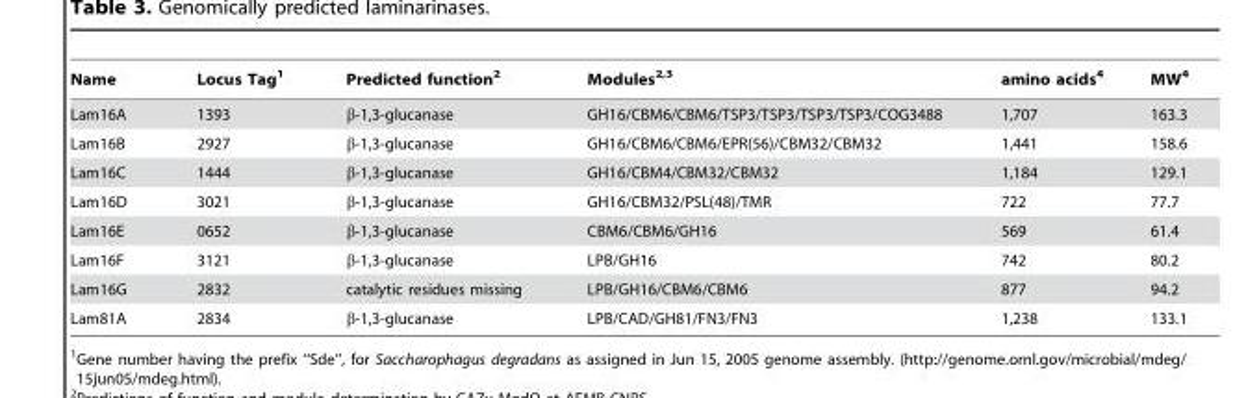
<table><thead><tr><td>Name</td><td>Locus Tag<sup>1</sup></td><td>Predicted function<sup>2</sup></td><td>Modules<sup>2</sup>,<sup>3</sup></td><td>amino acids<sup>4</sup></td><td>MW<sup>4</sup></td></tr></thead><tbody><tr><td>Lam16A</td><td>1393</td><td>β-1,3-glucanase</td><td>GH16/CBM6/CBM6/TSP3/TSP3/TSP3/TSP3/COG3488</td><td>1,707</td><td>163.3</td></tr><tr><td>Lam16B</td><td>2927</td><td>β-1,3-glucanase</td><td>GH16/CBM6/CBM6/EPR(56)/CBM32/CBM32</td><td>1,441</td><td>158.6</td></tr><tr><td>Lam16C</td><td>1444</td><td>β-1,3-glucanase</td><td>GH16/CBM4/CBM32/CBM32</td><td>1,184</td><td>129.1</td></tr><tr><td>Lam16D</td><td>3021</td><td>β-1,3-glucanase</td><td>GH16/CBM32/PSL(48)/TMR</td><td>722</td><td>77.7</td></tr><tr><td>Lam16E</td><td>0652</td><td>β-1,3-glucanase</td><td>CBM6/CBM6/GH16</td><td>569</td><td>61.4</td></tr><tr><td>Lam16F</td><td>3121</td><td>β-1,3-glucanase</td><td>LPB/GH16</td><td>742</td><td>80.2</td></tr><tr><td>Lam16G</td><td>2832</td><td>catalytic residues missing</td><td>LPB/GH16/CBM6/CBM6</td><td>877</td><td>94.2</td></tr><tr><td>Lam81A</td><td>2834</td><td>β-1,3-glucanase</td><td>LPB/CAD/GH81/FN3/FN3</td><td>1,238</td><td>133.1</td></tr></tbody></table>